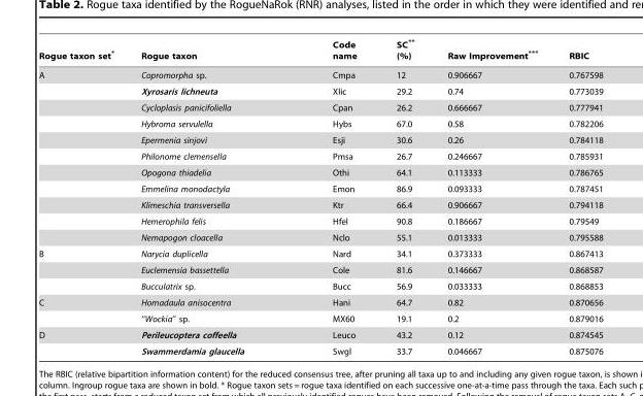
<table><thead><tr><td>Rogue taxon set*</td><td>Rogue taxon</td><td>Code name</td><td>SC** (%)</td><td>Raw Improvement***</td><td>RBIC</td></tr></thead><tbody><tr><td rowspan="11">A</td><td>Copromorpha sp.</td><td>Cmpa</td><td>12</td><td>0.906667</td><td>0.767598</td></tr><tr><td>Xyrosaris lichneuta</td><td>Xlic</td><td>29.2</td><td>0.74</td><td>0.773039</td></tr><tr><td>Cycloplasis panicifoliella</td><td>Cpan</td><td>26.2</td><td>0.666667</td><td>0.777941</td></tr><tr><td>Hybroma servulella</td><td>Hybs</td><td>67.0</td><td>0.58</td><td>0.782206</td></tr><tr><td>Epermenia sinjovi</td><td>Esji</td><td>30.6</td><td>0.26</td><td>0.784118</td></tr><tr><td>Philonome clemensella</td><td>Pmsa</td><td>26.7</td><td>0.246667</td><td>0.785931</td></tr><tr><td>Opogona thiadelia</td><td>Othi</td><td>64.1</td><td>0.113333</td><td>0.786765</td></tr><tr><td>Emmelina monodactyla</td><td>Emon</td><td>86.9</td><td>0.093333</td><td>0.787451</td></tr><tr><td>Klimeschia transversella</td><td>Ktr</td><td>66.4</td><td>0.906667</td><td>0.794118</td></tr><tr><td>Hemerophila felis</td><td>Hfel</td><td>90.8</td><td>0.186667</td><td>0.79549</td></tr><tr><td>Nemapogon cloacella</td><td>Nclo</td><td>55.1</td><td>0.013333</td><td>0.795588</td></tr><tr><td rowspan="3">B</td><td>Narycia duplicella</td><td>Nard</td><td>34.1</td><td>0.373333</td><td>0.867413</td></tr><tr><td>Euclemensia bassettella</td><td>Cole</td><td>81.6</td><td>0.146667</td><td>0.868587</td></tr><tr><td>Bucculatrix sp.</td><td>Bucc</td><td>56.9</td><td>0.033333</td><td>0.868853</td></tr><tr><td rowspan="2">C</td><td>Homadaula anisocentra</td><td>Hani</td><td>64.7</td><td>0.82</td><td>0.870656</td></tr><tr><td>‘‘Wockia’’ sp.</td><td>MX60</td><td>19.1</td><td>0.2</td><td>0.879016</td></tr><tr><td rowspan="2">D</td><td>Perileucoptera coffeella</td><td>Leuco</td><td>43.2</td><td>0.12</td><td>0.874545</td></tr><tr><td>Swammerdamia glaucella</td><td>Swgl</td><td>33.7</td><td>0.046667</td><td>0.875076</td></tr></tbody></table>